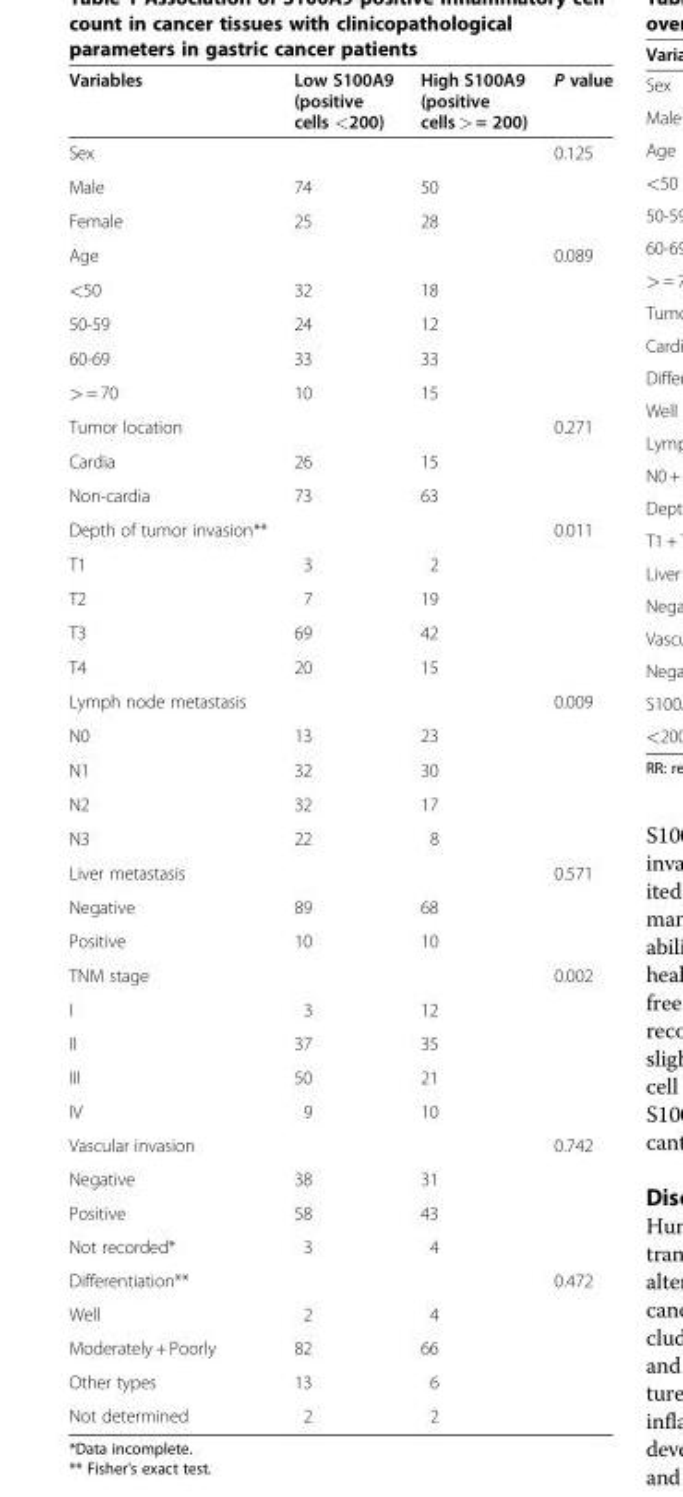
<table><thead><tr><td>Variables</td><td>Low S100A9 (positive cells &lt;200)</td><td>High S100A9 (positive cells &gt; = 200)</td><td>P value</td></tr></thead><tbody><tr><td>Sex</td><td></td><td></td><td>0.125</td></tr><tr><td>Male</td><td>74</td><td>50</td><td></td></tr><tr><td>Female</td><td>25</td><td>28</td><td></td></tr><tr><td>Age</td><td></td><td></td><td>0.089</td></tr><tr><td>&lt;50</td><td>32</td><td>18</td><td></td></tr><tr><td>50-59</td><td>24</td><td>12</td><td></td></tr><tr><td>60-69</td><td>33</td><td>33</td><td></td></tr><tr><td>&gt; = 70</td><td>10</td><td>15</td><td></td></tr><tr><td>Tumor location</td><td></td><td></td><td>0.271</td></tr><tr><td>Cardia</td><td>26</td><td>15</td><td></td></tr><tr><td>Non-cardia</td><td>73</td><td>63</td><td></td></tr><tr><td>Depth of tumor invasion**</td><td></td><td></td><td>0.011</td></tr><tr><td>T1</td><td>3</td><td>2</td><td></td></tr><tr><td>T2</td><td>7</td><td>19</td><td></td></tr><tr><td>T3</td><td>69</td><td>42</td><td></td></tr><tr><td>T4</td><td>20</td><td>15</td><td></td></tr><tr><td>Lymph node metastasis</td><td></td><td></td><td>0.009</td></tr><tr><td>N0</td><td>13</td><td>23</td><td></td></tr><tr><td>N1</td><td>32</td><td>30</td><td></td></tr><tr><td>N2</td><td>32</td><td>17</td><td></td></tr><tr><td>N3</td><td>22</td><td>8</td><td></td></tr><tr><td>Liver metastasis</td><td></td><td></td><td>0.571</td></tr><tr><td>Negative</td><td>89</td><td>68</td><td></td></tr><tr><td>Positive</td><td>10</td><td>10</td><td></td></tr><tr><td>TNM stage</td><td></td><td></td><td>0.002</td></tr><tr><td>І</td><td>3</td><td>12</td><td></td></tr><tr><td>II</td><td>37</td><td>35</td><td></td></tr><tr><td>III</td><td>50</td><td>21</td><td></td></tr><tr><td>IV</td><td>9</td><td>10</td><td></td></tr><tr><td>Vascular invasion</td><td></td><td></td><td>0.742</td></tr><tr><td>Negative</td><td>38</td><td>31</td><td></td></tr><tr><td>Positive</td><td>58</td><td>43</td><td></td></tr><tr><td>Not recorded*</td><td>3</td><td>4</td><td></td></tr><tr><td>Differentiation**</td><td></td><td></td><td>0.472</td></tr><tr><td>Well</td><td>2</td><td>4</td><td></td></tr><tr><td>Moderately + Poorly</td><td>82</td><td>66</td><td></td></tr><tr><td>Other types</td><td>13</td><td>6</td><td></td></tr><tr><td>Not determined</td><td>2</td><td>2</td><td></td></tr></tbody></table>